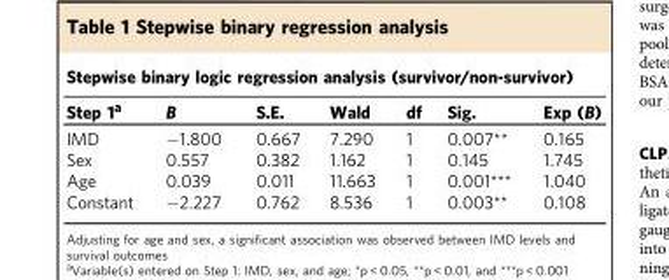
<table><thead><tr><td colspan="7">Stepwise binary logic regression analysis (survivor/non-survivor)</td></tr><tr><td>Step 1<sup>a</sup></td><td>B</td><td>S.E.</td><td>Wald</td><td>df</td><td>Sig.</td><td>Exp (B)</td></tr></thead><tbody><tr><td>IMD</td><td>−1.800</td><td>0.667</td><td>7.290</td><td>1</td><td>0.007**</td><td>0.165</td></tr><tr><td>Sex</td><td>0.557</td><td>0.382</td><td>1.162</td><td>1</td><td>0.145</td><td>1.745</td></tr><tr><td>Age</td><td>0.039</td><td>0.011</td><td>11.663</td><td>1</td><td>0.001***</td><td>1.040</td></tr><tr><td>Constant</td><td>−2.227</td><td>0.762</td><td>8.536</td><td>1</td><td>0.003**</td><td>0.108</td></tr></tbody></table>